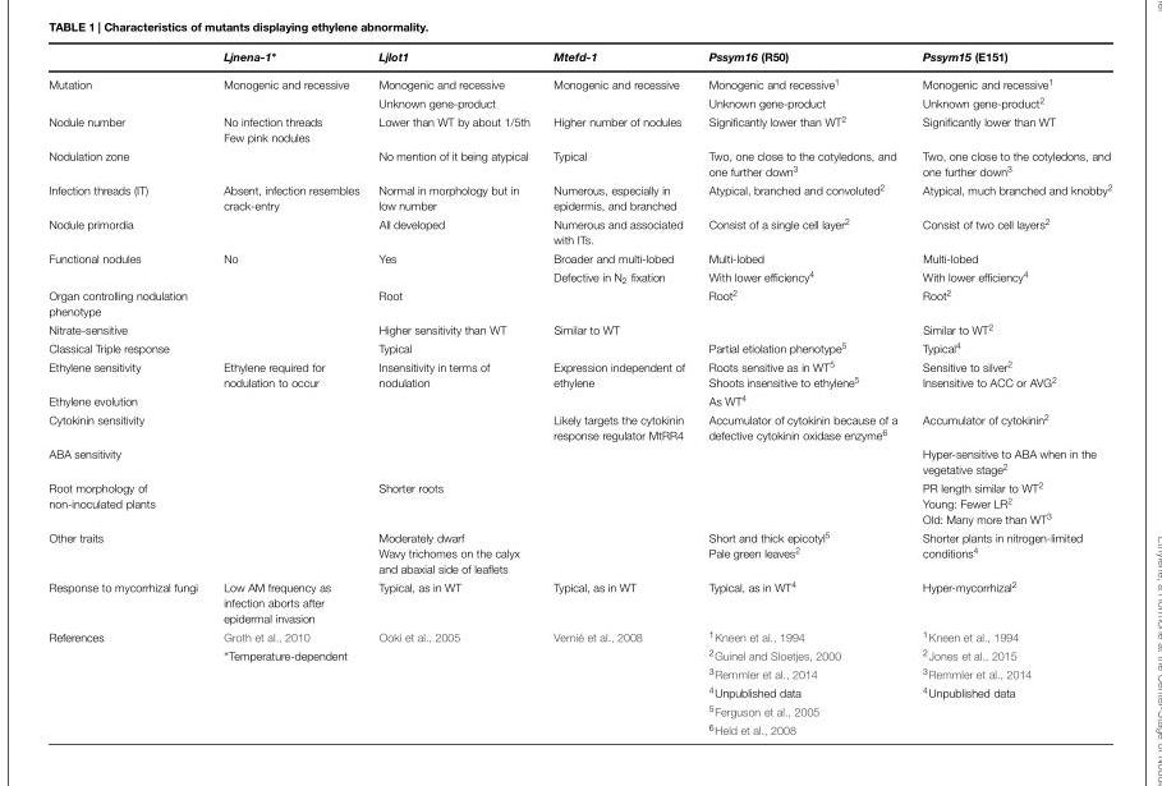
<table><thead><tr><td></td><td>Ljnena-1∗</td><td>Ljlot1</td><td>Mtefd-1</td><td>Pssym16 (R50)</td><td>Pssym15 (E151)</td></tr></thead><tbody><tr><td rowspan="2">Mutation</td><td>Monogenic and recessive</td><td>Monogenic and recessive</td><td>Monogenic and recessive</td><td>Monogenic and recessive<sup>1</sup></td><td>Monogenic and recessive<sup>1</sup></td></tr><tr><td></td><td>Unknown gene-product</td><td></td><td>Unknown gene-product</td><td>Unknown gene-product<sup>2</sup></td></tr><tr><td>Nodule number</td><td>No infection threads Few pink nodules</td><td>Lower than WT by about 1/5th</td><td>Higher number of nodules</td><td>Significantly lower than WT<sup>2</sup></td><td>Significantly lower than WT</td></tr><tr><td>Nodulation zone</td><td></td><td>No mention of it being atypical</td><td>Typical</td><td>Two, one close to the cotyledons, and one further down<sup>3</sup></td><td>Two, one close to the cotyledons, and one further down<sup>3</sup></td></tr><tr><td>Infection threads (IT)</td><td>Absent, infection resembles crack-entry</td><td>Normal in morphology but in low number</td><td>Numerous, especially in epidermis, and branched</td><td>Atypical, branched and convoluted<sup>2</sup></td><td>Atypical, much branched and knobby<sup>2</sup></td></tr><tr><td>Nodule primordia</td><td></td><td>All developed</td><td>Numerous and associated with ITs.</td><td>Consist of a single cell layer<sup>2</sup></td><td>Consist of two cell layers<sup>2</sup></td></tr><tr><td rowspan="2">Functional nodules</td><td>No</td><td>Yes</td><td>Broader and multi-lobed</td><td>Multi-lobed</td><td>Multi-lobed</td></tr><tr><td></td><td></td><td>Defective in N<sub>2</sub> fixation</td><td>With lower efficiency<sup>4</sup></td><td>With lower efficiency<sup>4</sup></td></tr><tr><td>Organ controlling nodulation phenotype</td><td></td><td>Root</td><td></td><td>Root<sup>2</sup></td><td>Root<sup>2</sup></td></tr><tr><td>Nitrate-sensitive</td><td></td><td>Higher sensitivity than WT</td><td>Similar to WT</td><td></td><td>Similar to WT<sup>2</sup></td></tr><tr><td>Classical Triple response</td><td></td><td>Typical</td><td></td><td>Partial etiolation phenotype<sup>5</sup></td><td>Typical<sup>4</sup></td></tr><tr><td>Ethylene sensitivity</td><td>Ethylene required for nodulation to occur</td><td>Insensitivity in terms of nodulation</td><td>Expression independent of ethylene</td><td>Roots sensitive as in WT<sup>5</sup> Shoots insensitive to ethylene<sup>5</sup></td><td>Sensitive to silver<sup>2</sup> Insensitive to ACC or AVG<sup>2</sup></td></tr><tr><td>Ethylene evolution</td><td></td><td></td><td></td><td>As WT<sup>4</sup></td><td></td></tr><tr><td>Cytokinin sensitivity</td><td></td><td></td><td>Likely targets the cytokinin response regulator MtRR4</td><td>Accumulator of cytokinin because of a defective cytokinin oxidase enzyme<sup>6</sup></td><td>Accumulator of cytokinin<sup>2</sup></td></tr><tr><td>ABA sensitivity</td><td></td><td></td><td></td><td></td><td>Hyper-sensitive to ABA when in the vegetative stage<sup>2</sup></td></tr><tr><td>Root morphology of non-inoculated plants</td><td></td><td>Shorter roots</td><td></td><td></td><td>PR length similar to WT<sup>2</sup> Young: Fewer LR<sup>2</sup> Old: Many more than WT<sup>3</sup></td></tr><tr><td>Other traits</td><td></td><td>Moderately dwarf Wavy trichomes on the calyx and abaxial side of leaflets</td><td></td><td>Short and thick epicotyl<sup>5</sup> Pale green leaves<sup>2</sup></td><td>Shorter plants in nitrogen-limited conditions<sup>4</sup></td></tr><tr><td>Response to mycorrhizal fungi</td><td>Low AM frequency as infection aborts after epidermal invasion</td><td>Typical, as in WT</td><td>Typical, as in WT</td><td>Typical, as in WT<sup>4</sup></td><td>Hyper-mycorrhizal<sup>2</sup></td></tr><tr><td rowspan="6">References</td><td>Groth et al., 2010</td><td>Ooki et al., 2005</td><td>Vernié et al., 2008</td><td><sup>1</sup>Kneen et al., 1994</td><td><sup>1</sup>Kneen et al., 1994</td></tr><tr><td>∗Temperature-dependent</td><td></td><td></td><td><sup>2</sup>Guinel and Sloetjes, 2000</td><td><sup>2</sup>Jones et al., 2015</td></tr><tr><td></td><td></td><td></td><td><sup>3</sup>Remmler et al., 2014</td><td><sup>3</sup>Remmler et al., 2014</td></tr><tr><td></td><td></td><td></td><td><sup>4</sup>Unpublished data</td><td><sup>4</sup>Unpublished data</td></tr><tr><td></td><td></td><td></td><td><sup>5</sup>Ferguson et al., 2005</td><td></td></tr><tr><td></td><td></td><td></td><td><sup>6</sup>Held et al., 2008</td><td></td></tr></tbody></table>